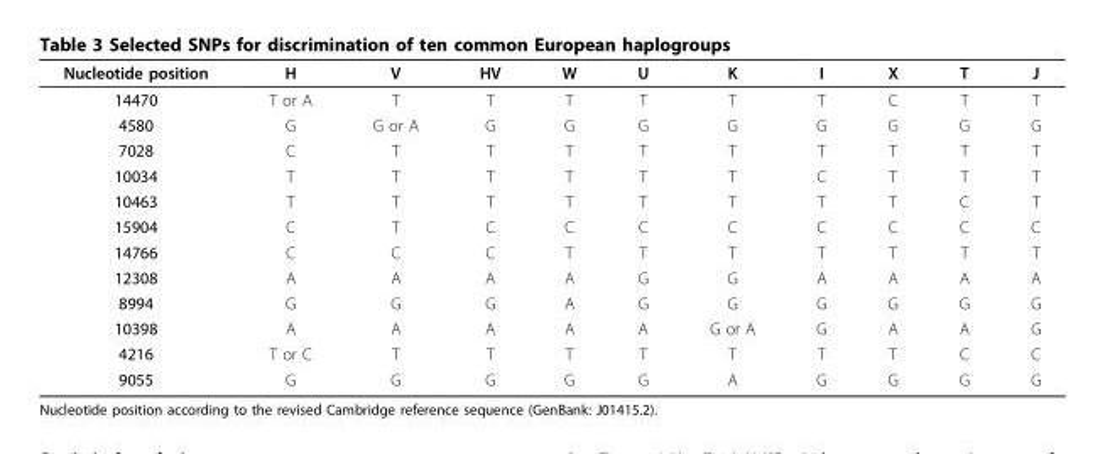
<table><thead><tr><td>Nucleotide position</td><td>H</td><td>V</td><td>HV</td><td>W</td><td>U</td><td>K</td><td>I</td><td>X</td><td>T</td><td>J</td></tr></thead><tbody><tr><td>14470</td><td>T or A</td><td>T</td><td>T</td><td>T</td><td>T</td><td>T</td><td>T</td><td>C</td><td>T</td><td>T</td></tr><tr><td>4580</td><td>G</td><td>G or A</td><td>G</td><td>G</td><td>G</td><td>G</td><td>G</td><td>G</td><td>G</td><td>G</td></tr><tr><td>7028</td><td>C</td><td>T</td><td>T</td><td>T</td><td>T</td><td>T</td><td>T</td><td>T</td><td>T</td><td>T</td></tr><tr><td>10034</td><td>T</td><td>T</td><td>T</td><td>T</td><td>T</td><td>T</td><td>C</td><td>T</td><td>T</td><td>T</td></tr><tr><td>10463</td><td>T</td><td>T</td><td>T</td><td>T</td><td>T</td><td>T</td><td>T</td><td>T</td><td>C</td><td>T</td></tr><tr><td>15904</td><td>C</td><td>T</td><td>C</td><td>C</td><td>C</td><td>C</td><td>C</td><td>C</td><td>C</td><td>C</td></tr><tr><td>14766</td><td>C</td><td>C</td><td>C</td><td>T</td><td>T</td><td>T</td><td>T</td><td>T</td><td>T</td><td>T</td></tr><tr><td>12308</td><td>A</td><td>A</td><td>A</td><td>A</td><td>G</td><td>G</td><td>A</td><td>A</td><td>A</td><td>A</td></tr><tr><td>8994</td><td>G</td><td>G</td><td>G</td><td>A</td><td>G</td><td>G</td><td>G</td><td>G</td><td>G</td><td>G</td></tr><tr><td>10398</td><td>A</td><td>A</td><td>A</td><td>A</td><td>A</td><td>G or A</td><td>G</td><td>A</td><td>A</td><td>G</td></tr><tr><td>4216</td><td>T or C</td><td>T</td><td>T</td><td>T</td><td>T</td><td>T</td><td>T</td><td>T</td><td>C</td><td>C</td></tr><tr><td>9055</td><td>G</td><td>G</td><td>G</td><td>G</td><td>G</td><td>A</td><td>G</td><td>G</td><td>G</td><td>G</td></tr></tbody></table>